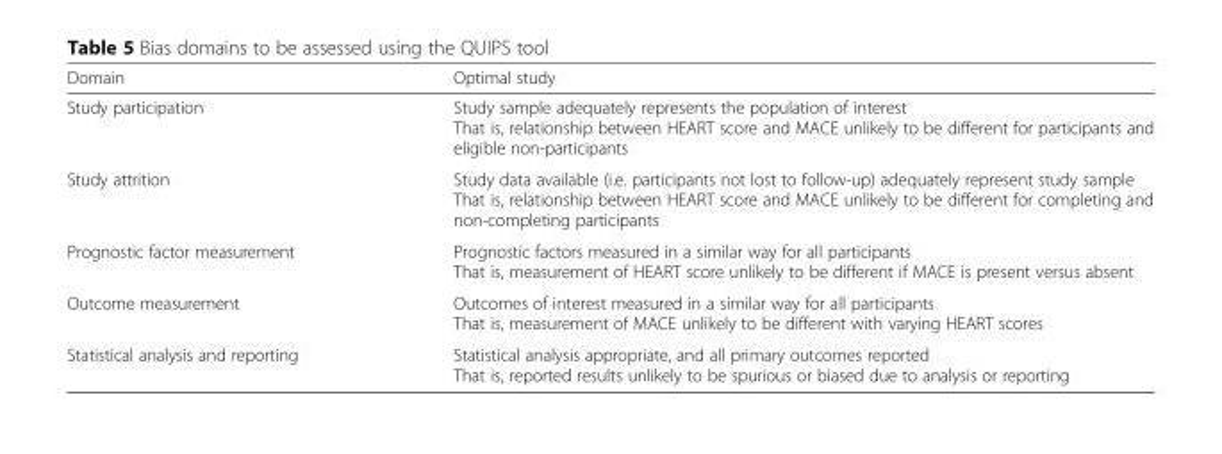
<table><thead><tr><td>Domain</td><td>Optimal study</td></tr></thead><tbody><tr><td>Study participation</td><td>Study sample adequately represents the population of interest That is, relationship between HEART score and MACE unlikely to be different for participants and eligible non-participants</td></tr><tr><td>Study attrition</td><td>Study data available (i.e. participants not lost to follow-up) adequately represent study sample That is, relationship between HEART score and MACE unlikely to be different for completing and non-completing participants</td></tr><tr><td>Prognostic factor measurement</td><td>Prognostic factors measured in a similar way for all participants That is, measurement of HEART score unlikely to be different if MACE is present versus absent</td></tr><tr><td>Outcome measurement</td><td>Outcomes of interest measured in a similar way for all participants That is, measurement of MACE unlikely to be different with varying HEART scores</td></tr><tr><td>Statistical analysis and reporting</td><td>Statistical analysis appropriate, and all primary outcomes reported That is, reported results unlikely to be spurious or biased due to analysis or reporting</td></tr></tbody></table>